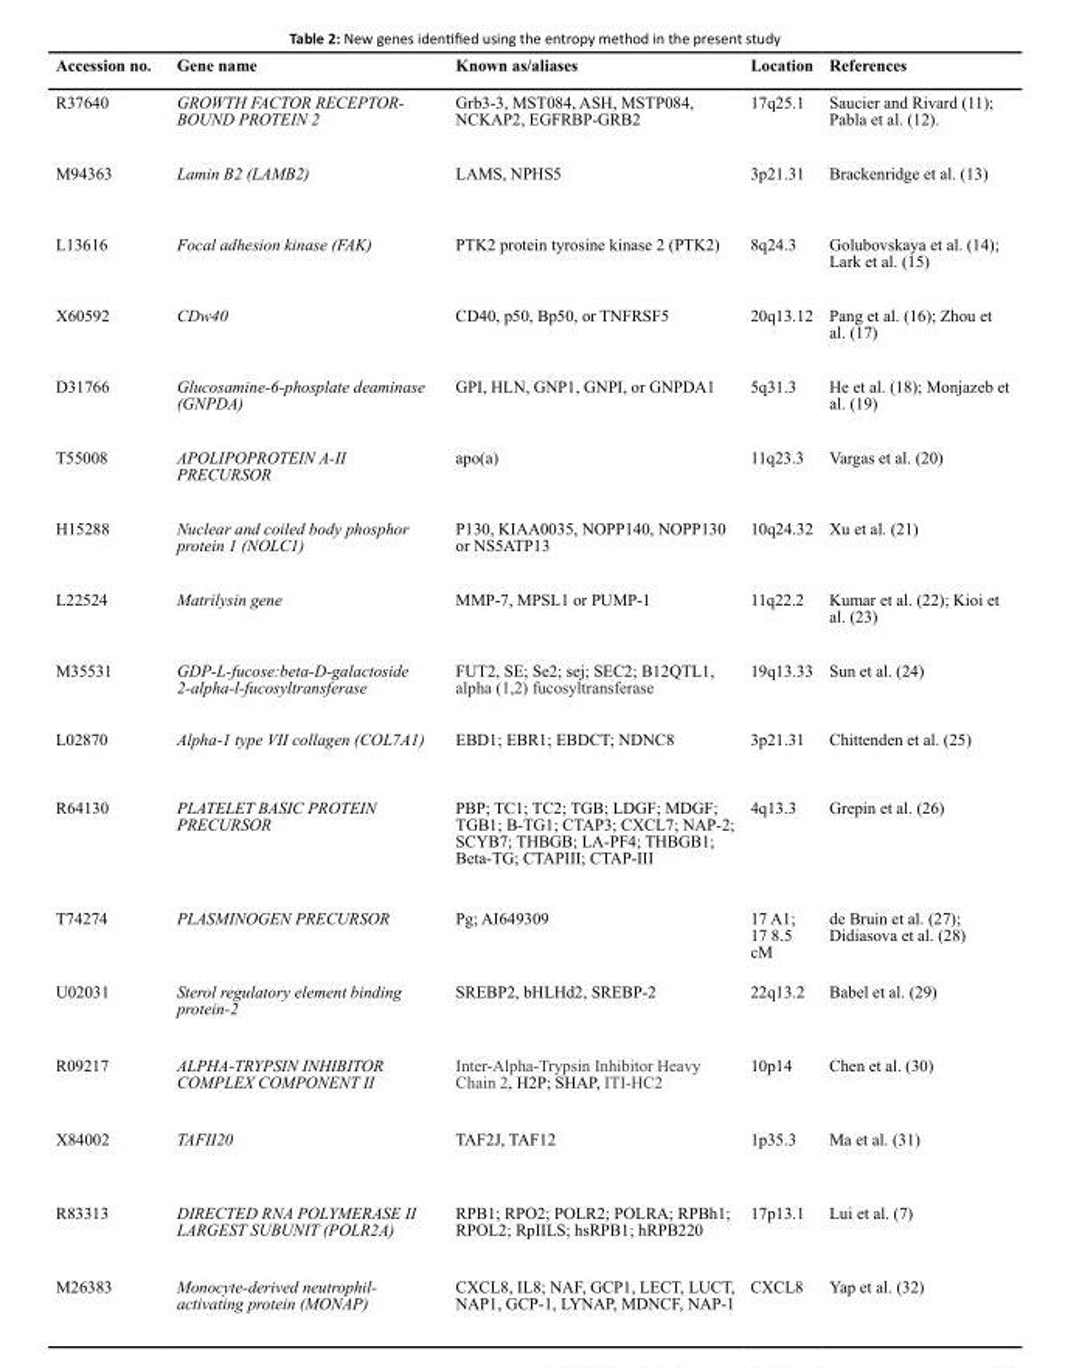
<table><thead><tr><td>Accession no.</td><td>Gene name</td><td>Known as/aliases</td><td>Location</td><td>References</td></tr></thead><tbody><tr><td>R37640</td><td>GROWTH FACTOR RECEPTOR- BOUND PROTEIN 2</td><td>Grb3-3, MST084, ASH, MSTP084, NCKAP2, EGFRBP-GRB2</td><td>17q25.1</td><td>Saucier and Rivard (11); Pabla et al. (12).</td></tr><tr><td>M94363</td><td>Lamin B2 (LAMB2)</td><td>LAMS, NPHS5</td><td>3p21.31</td><td>Brackenridge et al. (13)</td></tr><tr><td>L13616</td><td>Focal adhesion kinase (FAK)</td><td>PTK2 protein tyrosine kinase 2 (PTK2)</td><td>8q24.3</td><td>Golubovskaya et al. (14); Lark et al. (15)</td></tr><tr><td>X60592</td><td>CDw40</td><td>CD40, p50, Bp50, or TNFRSF5</td><td>20q13.12</td><td>Pang et al. (16); Zhou et al. (17)</td></tr><tr><td>D31766</td><td>Glucosamine-6-phosplate deaminase (GNPDA)</td><td>GPI, HLN, GNP1, GNPI, or GNPDA1</td><td>5q31.3</td><td>He et al. (18); Monjazeb et al. (19)</td></tr><tr><td>T55008</td><td>APOLIPOPROTEIN A-II PRECURSOR</td><td>apo(a)</td><td>11q23.3</td><td>Vargas et al. (20)</td></tr><tr><td>H15288</td><td>Nuclear and coiled body phosphor protein 1 (NOLC1)</td><td>P130, KIAA0035, NOPP140, NOPP130 or NS5ATP13</td><td>10q24.32</td><td>Xu et al. (21)</td></tr><tr><td>L22524</td><td>Matrilysin gene</td><td>MMP-7, MPSL1 or PUMP-1</td><td>11q22.2</td><td>Kumar et al. (22); Kioi et al. (23)</td></tr><tr><td>M35531</td><td>GDP-L-fucose:beta-D-galactoside 2-alpha-l-fucosyltransferase</td><td>FUT2, SE; Se2; sej; SEC2; B12QTL1, alpha (1,2) fucosyltransferase</td><td>19q13.33</td><td>Sun et al. (24)</td></tr><tr><td>L02870</td><td>Alpha-1 type VII collagen (COL7A1)</td><td>EBD1; EBR1; EBDCT; NDNC8</td><td>3p21.31</td><td>Chittenden et al. (25)</td></tr><tr><td>R64130</td><td>PLATELET BASIC PROTEIN PRECURSOR</td><td>PBP; TC1; TC2; TGB; LDGF; MDGF; TGB1; B-TG1; CTAP3; CXCL7; NAP-2; SCYB7; THBGB; LA-PF4; THBGB1; Beta-TG; CTAPIII; CTAP-III</td><td>4q13.3</td><td>Grepin et al. (26)</td></tr><tr><td>T74274</td><td>PLASMINOGEN PRECURSOR</td><td>Pg; AI649309</td><td>17 A1; 17 8.5 cM</td><td>de Bruin et al. (27); Didiasova et al. (28)</td></tr><tr><td>U02031</td><td>Sterol regulatory element binding protein-2</td><td>SREBP2, bHLHd2, SREBP-2</td><td>22q13.2</td><td>Babel et al. (29)</td></tr><tr><td>R09217</td><td>ALPHA-TRYPSIN INHIBITOR COMPLEX COMPONENT II</td><td>Inter-Alpha-Trypsin Inhibitor Heavy Chain 2, H2P; SHAP, ITI-HC2</td><td>10p14</td><td>Chen et al. (30)</td></tr><tr><td>X84002</td><td>TAFII20</td><td>TAF2J, TAF12</td><td>1p35.3</td><td>Ma et al. (31)</td></tr><tr><td>R83313</td><td>DIRECTED RNA POLYMERASE II LARGEST SUBUNIT (POLR2A)</td><td>RPB1; RPO2; POLR2; POLRA; RPBh1; RPOL2; RpIILS; hsRPB1; hRPB220</td><td>17p13.1</td><td>Lui et al. (7)</td></tr><tr><td>M26383</td><td>Monocyte-derived neutrophil- activating protein (MONAP)</td><td>CXCL8, IL8; NAF, GCP1, LECT, LUCT, NAP1, GCP-1, LYNAP, MDNCF, NAP-1</td><td>CXCL8</td><td>Yap et al. (32)</td></tr></tbody></table>